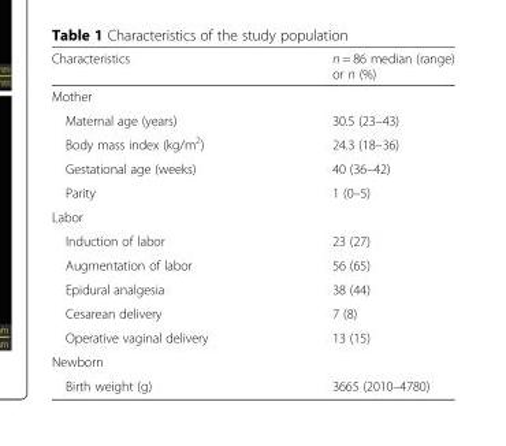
<table><thead><tr><td>Characteristics</td><td>n = 86 median (range) or n (%)</td></tr></thead><tbody><tr><td colspan="2">Mother</td></tr><tr><td>Maternal age (years)</td><td>30.5 (23–43)</td></tr><tr><td>Body mass index (kg/m<sup>2</sup>)</td><td>24.3 (18–36)</td></tr><tr><td>Gestational age (weeks)</td><td>40 (36–42)</td></tr><tr><td>Parity</td><td>1 (0–5)</td></tr><tr><td colspan="2">Labor</td></tr><tr><td>Induction of labor</td><td>23 (27)</td></tr><tr><td>Augmentation of labor</td><td>56 (65)</td></tr><tr><td>Epidural analgesia</td><td>38 (44)</td></tr><tr><td>Cesarean delivery</td><td>7 (8)</td></tr><tr><td>Operative vaginal delivery</td><td>13 (15)</td></tr><tr><td colspan="2">Newborn</td></tr><tr><td>Birth weight (g)</td><td>3665 (2010–4780)</td></tr></tbody></table>